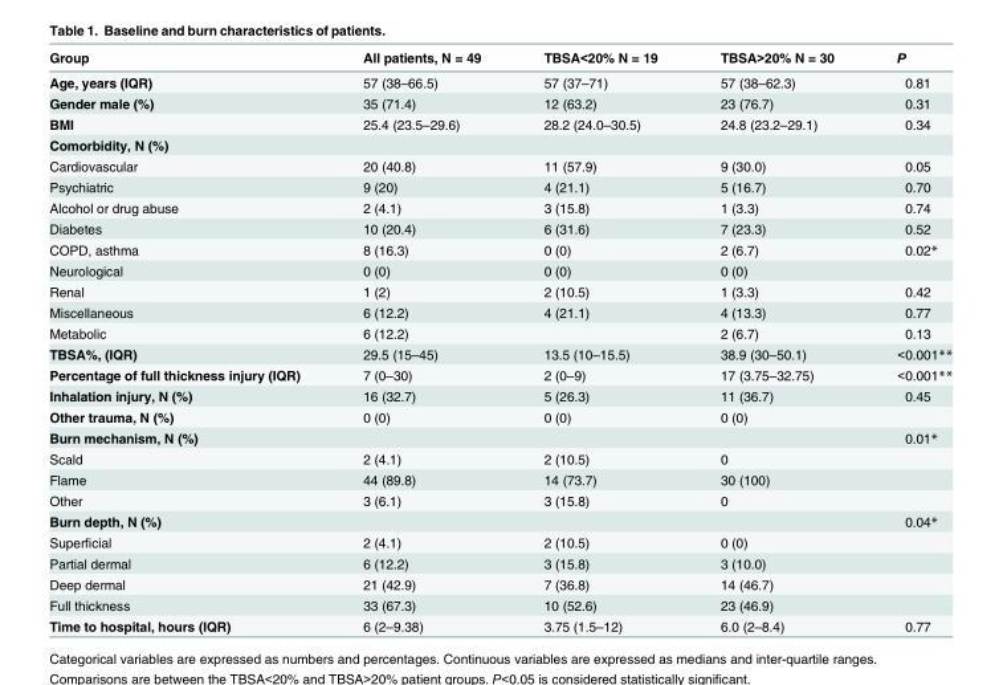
<table><thead><tr><td>Group</td><td>All patients, N = 49</td><td>TBSA&lt;20% N = 19</td><td>TBSA&gt;20% N = 30</td><td>P</td></tr></thead><tbody><tr><td>Age, years (IQR)</td><td>57 (38–66.5)</td><td>57 (37–71)</td><td>57 (38–62.3)</td><td>0.81</td></tr><tr><td>Gender male (%)</td><td>35 (71.4)</td><td>12 (63.2)</td><td>23 (76.7)</td><td>0.31</td></tr><tr><td>BMI</td><td>25.4 (23.5–29.6)</td><td>28.2 (24.0–30.5)</td><td>24.8 (23.2–29.1)</td><td>0.34</td></tr><tr><td colspan="5">Comorbidity, N (%)</td></tr><tr><td>Cardiovascular</td><td>20 (40.8)</td><td>11 (57.9)</td><td>9 (30.0)</td><td>0.05</td></tr><tr><td>Psychiatric</td><td>9 (20)</td><td>4 (21.1)</td><td>5 (16.7)</td><td>0.70</td></tr><tr><td>Alcohol or drug abuse</td><td>2 (4.1)</td><td>3 (15.8)</td><td>1 (3.3)</td><td>0.74</td></tr><tr><td>Diabetes</td><td>10 (20.4)</td><td>6 (31.6)</td><td>7 (23.3)</td><td>0.52</td></tr><tr><td>COPD, asthma</td><td>8 (16.3)</td><td>0 (0)</td><td>2 (6.7)</td><td>0.02*</td></tr><tr><td>Neurological</td><td>0 (0)</td><td>0 (0)</td><td>0 (0)</td><td></td></tr><tr><td>Renal</td><td>1 (2)</td><td>2 (10.5)</td><td>1 (3.3)</td><td>0.42</td></tr><tr><td>Miscellaneous</td><td>6 (12.2)</td><td>4 (21.1)</td><td>4 (13.3)</td><td>0.77</td></tr><tr><td>Metabolic</td><td>6 (12.2)</td><td></td><td>2 (6.7)</td><td>0.13</td></tr><tr><td>TBSA%, (IQR)</td><td>29.5 (15–45)</td><td>13.5 (10–15.5)</td><td>38.9 (30–50.1)</td><td>&lt;0.001**</td></tr><tr><td>Percentage of full thickness injury (IQR)</td><td>7 (0–30)</td><td>2 (0–9)</td><td>17 (3.75–32.75)</td><td>&lt;0.001**</td></tr><tr><td>Inhalation injury, N (%)</td><td>16 (32.7)</td><td>5 (26.3)</td><td>11 (36.7)</td><td>0.45</td></tr><tr><td>Other trauma, N (%)</td><td>0 (0)</td><td>0 (0)</td><td>0 (0)</td><td></td></tr><tr><td>Burn mechanism, N (%)</td><td></td><td></td><td></td><td>0.01*</td></tr><tr><td>Scald</td><td>2 (4.1)</td><td>2 (10.5)</td><td>0</td><td></td></tr><tr><td>Flame</td><td>44 (89.8)</td><td>14 (73.7)</td><td>30 (100)</td><td></td></tr><tr><td>Other</td><td>3 (6.1)</td><td>3 (15.8)</td><td>0</td><td></td></tr><tr><td>Burn depth, N (%)</td><td></td><td></td><td></td><td>0.04*</td></tr><tr><td>Superficial</td><td>2 (4.1)</td><td>2 (10.5)</td><td>0 (0)</td><td></td></tr><tr><td>Partial dermal</td><td>6 (12.2)</td><td>3 (15.8)</td><td>3 (10.0)</td><td></td></tr><tr><td>Deep dermal</td><td>21 (42.9)</td><td>7 (36.8)</td><td>14 (46.7)</td><td></td></tr><tr><td>Full thickness</td><td>33 (67.3)</td><td>10 (52.6)</td><td>23 (46.9)</td><td></td></tr><tr><td>Time to hospital, hours (IQR)</td><td>6 (2–9.38)</td><td>3.75 (1.5–12)</td><td>6.0 (2–8.4)</td><td>0.77</td></tr></tbody></table>